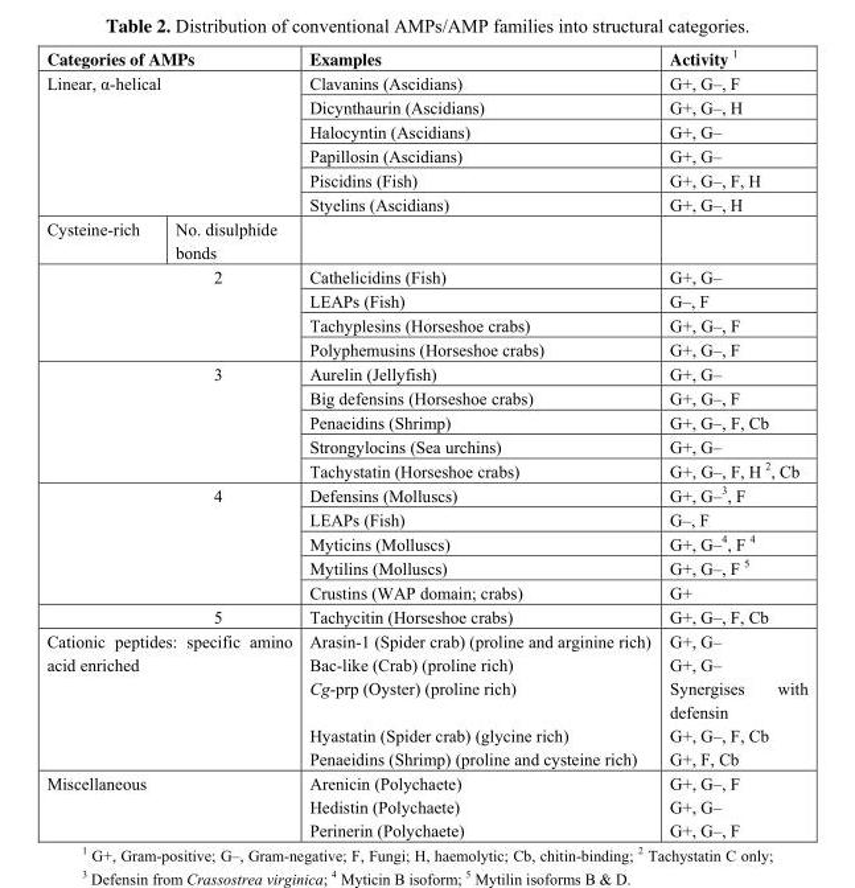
<table><thead><tr><td colspan="2">Categories of AMPs</td><td>Examples</td><td>Activity 1</td></tr></thead><tbody><tr><td rowspan="6" colspan="2">Linear, α-helical</td><td>Clavanins (Ascidians)</td><td>G+, G–, F</td></tr><tr><td>Dicynthaurin (Ascidians)</td><td>G+, G–, H</td></tr><tr><td>Halocyntin (Ascidians)</td><td>G+, G–</td></tr><tr><td>Papillosin (Ascidians)</td><td>G+, G–</td></tr><tr><td>Piscidins (Fish)</td><td>G+, G–, F, H</td></tr><tr><td>Styelins (Ascidians)</td><td>G+, G–, H</td></tr><tr><td>Cysteine-rich</td><td>No. disulphide bonds</td><td></td><td></td></tr><tr><td rowspan="4" colspan="2">2</td><td>Cathelicidins (Fish)</td><td>G+, G–</td></tr><tr><td>LEAPs (Fish)</td><td>G–, F</td></tr><tr><td>Tachyplesins (Horseshoe crabs)</td><td>G+, G–, F</td></tr><tr><td>Polyphemusins (Horseshoe crabs)</td><td>G+, G–, F</td></tr><tr><td rowspan="5" colspan="2">3</td><td>Aurelin (Jellyfish)</td><td>G+, G–</td></tr><tr><td>Big defensins (Horseshoe crabs)</td><td>G+, G–, F</td></tr><tr><td>Penaeidins (Shrimp)</td><td>G+, G–, F, Cb</td></tr><tr><td>Strongylocins (Sea urchins)</td><td>G+, G–</td></tr><tr><td>Tachystatin (Horseshoe crabs)</td><td>G+, G–, F, H 2, Cb</td></tr><tr><td rowspan="5" colspan="2">4</td><td>Defensins (Molluscs)</td><td>G+, G–3, F</td></tr><tr><td>LEAPs (Fish)</td><td>G–, F</td></tr><tr><td>Myticins (Molluscs)</td><td>G+, G–4, F 4</td></tr><tr><td>Mytilins (Molluscs)</td><td>G+, G–, F 5</td></tr><tr><td>Crustins (WAP domain; crabs)</td><td>G+</td></tr><tr><td colspan="2">5</td><td>Tachycitin (Horseshoe crabs)</td><td>G+, G–, F, Cb</td></tr><tr><td colspan="2">Cationic peptides: specific amino acid enriched</td><td>Arasin-1 (Spider crab) (proline and arginine rich) Bac-like (Crab) (proline rich) Cg-prp (Oyster) (proline rich) Hyastatin (Spider crab) (glycine rich) Penaeidins (Shrimp) (proline and cysteine rich)</td><td>G+, G– G+, G– Synergises with defensin G+, G–, F, Cb G+, F, Cb</td></tr><tr><td colspan="2">Miscellaneous</td><td>Arenicin (Polychaete) Hedistin (Polychaete) Perinerin (Polychaete)</td><td>G+, G–, F G+, G– G+, G–, F</td></tr></tbody></table>